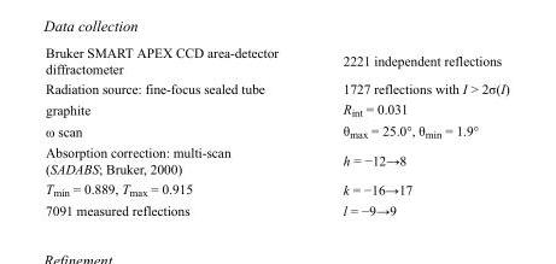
<table><tbody><tr><td>Bruker SMART APEX CCD area-detector diffractometer</td><td>2221 independent reflections</td></tr><tr><td>Radiation source: fine-focus sealed tube</td><td>1727 reflections with I &gt; 2σ(I)</td></tr><tr><td>graphite</td><td>R<sub>int</sub> = 0.031</td></tr><tr><td>ω scan</td><td>θ<sub>max</sub> = 25.0°, θ<sub>min</sub> = 1.9°</td></tr><tr><td>Absorption correction: multi-scan (SADABS; Bruker, 2000)</td><td>h = −12→8</td></tr><tr><td>T<sub>min</sub> = 0.889, T<sub>max</sub> = 0.915</td><td>k = −16→17</td></tr><tr><td>7091 measured reflections</td><td>l = −9→9</td></tr></tbody></table>